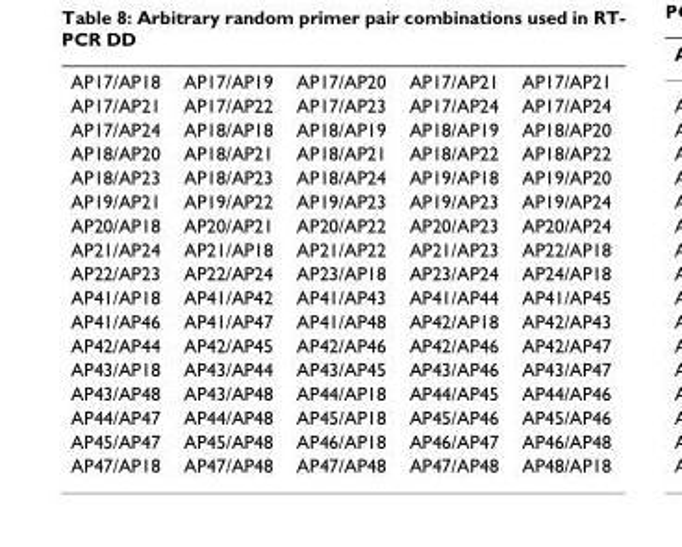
<table><tbody><tr><td>AP17/AP18</td><td>AP17/AP19</td><td>AP17/AP20</td><td>AP17/AP21</td><td>AP17/AP21</td></tr><tr><td>AP17/AP21</td><td>AP17/AP22</td><td>AP17/AP23</td><td>AP17/AP24</td><td>AP17/AP24</td></tr><tr><td>AP17/AP24</td><td>AP18/AP18</td><td>AP18/AP19</td><td>AP18/AP19</td><td>AP18/AP20</td></tr><tr><td>AP18/AP20</td><td>AP18/AP21</td><td>AP18/AP21</td><td>AP18/AP22</td><td>AP18/AP22</td></tr><tr><td>AP18/AP23</td><td>AP18/AP23</td><td>AP18/AP24</td><td>AP19/AP18</td><td>AP19/AP20</td></tr><tr><td>AP19/AP21</td><td>AP19/AP22</td><td>AP19/AP23</td><td>AP19/AP23</td><td>AP19/AP24</td></tr><tr><td>AP20/AP18</td><td>AP20/AP21</td><td>AP20/AP22</td><td>AP20/AP23</td><td>AP20/AP24</td></tr><tr><td>AP21/AP24</td><td>AP21/AP18</td><td>AP21/AP22</td><td>AP21/AP23</td><td>AP22/AP18</td></tr><tr><td>AP22/AP23</td><td>AP22/AP24</td><td>AP23/AP18</td><td>AP23/AP24</td><td>AP24/AP18</td></tr><tr><td>AP41/AP18</td><td>AP41/AP42</td><td>AP41/AP43</td><td>AP41/AP44</td><td>AP41/AP45</td></tr><tr><td>AP41/AP46</td><td>AP41/AP47</td><td>AP41/AP48</td><td>AP42/AP18</td><td>AP42/AP43</td></tr><tr><td>AP42/AP44</td><td>AP42/AP45</td><td>AP42/AP46</td><td>AP42/AP46</td><td>AP42/AP47</td></tr><tr><td>AP43/AP18</td><td>AP43/AP44</td><td>AP43/AP45</td><td>AP43/AP46</td><td>AP43/AP47</td></tr><tr><td>AP43/AP48</td><td>AP43/AP48</td><td>AP44/AP18</td><td>AP44/AP45</td><td>AP44/AP46</td></tr><tr><td>AP44/AP47</td><td>AP44/AP48</td><td>AP45/AP18</td><td>AP45/AP46</td><td>AP45/AP46</td></tr><tr><td>AP45/AP47</td><td>AP45/AP48</td><td>AP46/AP18</td><td>AP46/AP47</td><td>AP46/AP48</td></tr><tr><td>AP47/AP18</td><td>AP47/AP48</td><td>AP47/AP48</td><td>AP47/AP48</td><td>AP48/AP18</td></tr></tbody></table>